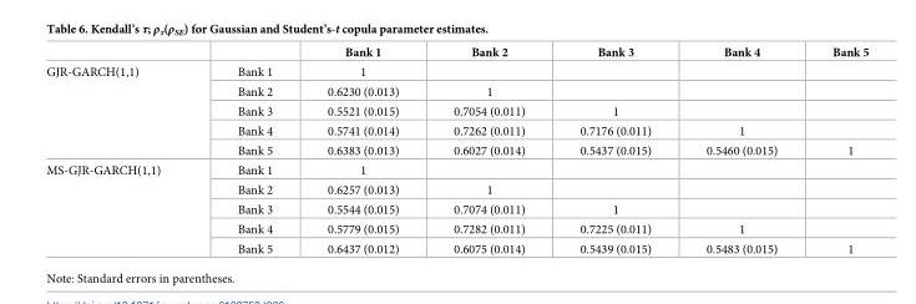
<table><thead><tr><td></td><td></td><td>Bank 1</td><td>Bank 2</td><td>Bank 3</td><td>Bank 4</td><td>Bank 5</td></tr></thead><tbody><tr><td rowspan="5">GJR-GARCH(1,1)</td><td>Bank 1</td><td>1</td><td></td><td></td><td></td><td></td></tr><tr><td>Bank 2</td><td>0.6230 (0.013)</td><td>1</td><td></td><td></td><td></td></tr><tr><td>Bank 3</td><td>0.5521 (0.015)</td><td>0.7054 (0.011)</td><td>1</td><td></td><td></td></tr><tr><td>Bank 4</td><td>0.5741 (0.014)</td><td>0.7262 (0.011)</td><td>0.7176 (0.011)</td><td>1</td><td></td></tr><tr><td>Bank 5</td><td>0.6383 (0.013)</td><td>0.6027 (0.014)</td><td>0.5437 (0.015)</td><td>0.5460 (0.015)</td><td>1</td></tr><tr><td rowspan="5">MS-GJR-GARCH(1,1)</td><td>Bank 1</td><td>1</td><td></td><td></td><td></td><td></td></tr><tr><td>Bank 2</td><td>0.6257 (0.013)</td><td>1</td><td></td><td></td><td></td></tr><tr><td>Bank 3</td><td>0.5544 (0.015)</td><td>0.7074 (0.011)</td><td>1</td><td></td><td></td></tr><tr><td>Bank 4</td><td>0.5779 (0.015)</td><td>0.7282 (0.011)</td><td>0.7225 (0.011)</td><td>1</td><td></td></tr><tr><td>Bank 5</td><td>0.6437 (0.012)</td><td>0.6075 (0.014)</td><td>0.5439 (0.015)</td><td>0.5483 (0.015)</td><td>1</td></tr></tbody></table>